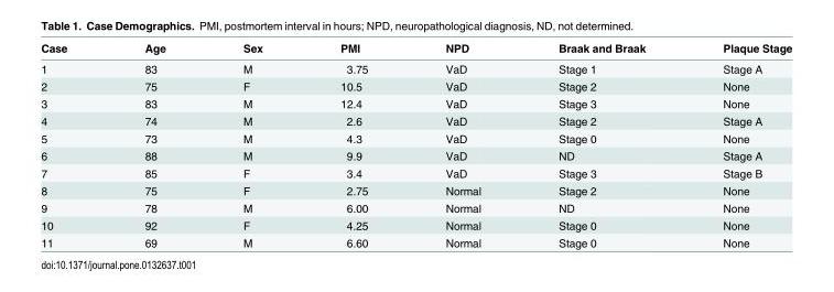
<table><thead><tr><td>Case</td><td>Age</td><td>Sex</td><td>PMI</td><td>NPD</td><td>Braak and Braak</td><td>Plaque Stage</td></tr></thead><tbody><tr><td>1</td><td>83</td><td>M</td><td>3.75</td><td>VaD</td><td>Stage 1</td><td>Stage A</td></tr><tr><td>2</td><td>75</td><td>F</td><td>10.5</td><td>VaD</td><td>Stage 2</td><td>None</td></tr><tr><td>3</td><td>83</td><td>M</td><td>12.4</td><td>VaD</td><td>Stage 3</td><td>None</td></tr><tr><td>4</td><td>74</td><td>M</td><td>2.6</td><td>VaD</td><td>Stage 2</td><td>Stage A</td></tr><tr><td>5</td><td>73</td><td>M</td><td>4.3</td><td>VaD</td><td>Stage 0</td><td>None</td></tr><tr><td>6</td><td>88</td><td>M</td><td>9.9</td><td>VaD</td><td>ND</td><td>Stage A</td></tr><tr><td>7</td><td>85</td><td>F</td><td>3.4</td><td>VaD</td><td>Stage 3</td><td>Stage B</td></tr><tr><td>8</td><td>75</td><td>F</td><td>2.75</td><td>Normal</td><td>Stage 2</td><td>None</td></tr><tr><td>9</td><td>78</td><td>M</td><td>6.00</td><td>Normal</td><td>ND</td><td>None</td></tr><tr><td>10</td><td>92</td><td>F</td><td>4.25</td><td>Normal</td><td>Stage 0</td><td>None</td></tr><tr><td>11</td><td>69</td><td>M</td><td>6.60</td><td>Normal</td><td>Stage 0</td><td>None</td></tr></tbody></table>